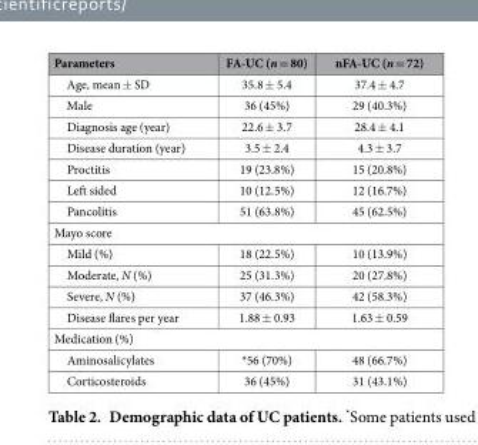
<table><thead><tr><td>Parameters</td><td>FA-UC (n = 80)</td><td>nFA-UC (n = 72)</td></tr></thead><tbody><tr><td>Age, mean ± SD</td><td>35.8 ± 5.4</td><td>37.4 ± 4.7</td></tr><tr><td>Male</td><td>36 (45%)</td><td>29 (40.3%)</td></tr><tr><td>Diagnosis age (year)</td><td>22.6 ± 3.7</td><td>28.4 ± 4.1</td></tr><tr><td>Disease duration (year)</td><td>3.5 ± 2.4</td><td>4.3 ± 3.7</td></tr><tr><td>Proctitis</td><td>19 (23.8%)</td><td>15 (20.8%)</td></tr><tr><td>Left sided</td><td>10 (12.5%)</td><td>12 (16.7%)</td></tr><tr><td>Pancolitis</td><td>51 (63.8%)</td><td>45 (62.5%)</td></tr><tr><td colspan="3">Mayo score</td></tr><tr><td>Mild (%)</td><td>18 (22.5%)</td><td>10 (13.9%)</td></tr><tr><td>Moderate, N (%)</td><td>25 (31.3%)</td><td>20 (27.8%)</td></tr><tr><td>Severe, N (%)</td><td>37 (46.3%)</td><td>42 (58.3%)</td></tr><tr><td>Disease flares per year</td><td>1.88 ± 0.93</td><td>1.63 ± 0.59</td></tr><tr><td colspan="3">Medication (%)</td></tr><tr><td>Aminosalicylates</td><td>*56 (70%)</td><td>48 (66.7%)</td></tr><tr><td>Corticosteroids</td><td>36 (45%)</td><td>31 (43.1%)</td></tr></tbody></table>